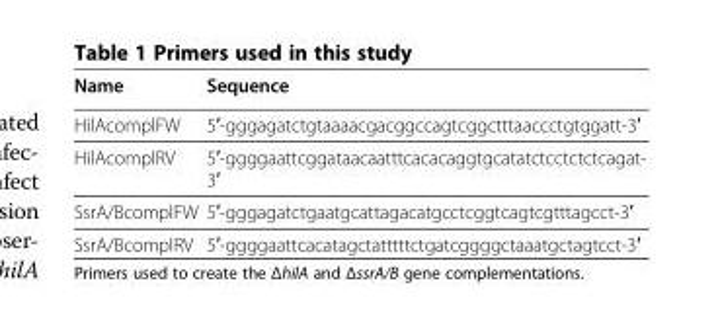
<table><thead><tr><td>Name</td><td>Sequence</td></tr></thead><tbody><tr><td>HilAcomplFW</td><td>5′-gggagatctgtaaaacgacggccagtcggctttaaccctgtggatt-3′</td></tr><tr><td>HilAcomplRV</td><td>5′-ggggaattcggataacaatttcacacaggtgcatatctcctctctcagat- 3′</td></tr><tr><td>SsrA/BcomplFW</td><td>5′-gggagatctgaatgcattagacatgcctcggtcagtcgtttagcct-3′</td></tr><tr><td>SsrA/BcomplRV</td><td>5′-ggggaattcacatagctatttttctgatcggggctaaatgctagtcct-3′</td></tr></tbody></table>